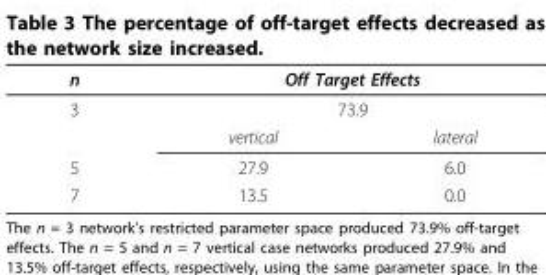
<table><thead><tr><td rowspan="3">n 3</td><td rowspan="2" colspan="2">Off Target Effects 73.9</td></tr><tr></tr><tr><td>vertical</td><td>lateral</td></tr></thead><tbody><tr><td>5</td><td>27.9</td><td>6.0</td></tr><tr><td>7</td><td>13.5</td><td>0.0</td></tr></tbody></table>